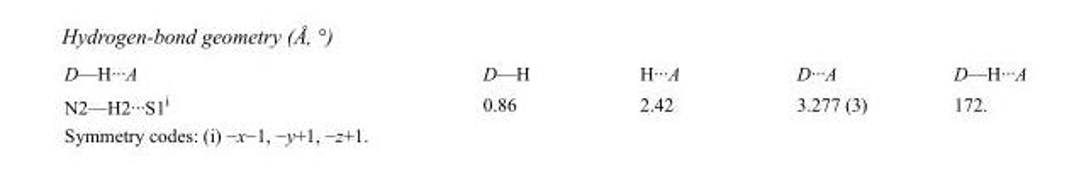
<table><tbody><tr><td>D—H···A</td><td>D—H</td><td>H···A</td><td>D···A</td><td>D—H···A</td></tr><tr><td>N2—H2···S1<sup>i</sup></td><td>0.86</td><td>2.42</td><td>3.277 (3)</td><td>172.</td></tr></tbody></table>